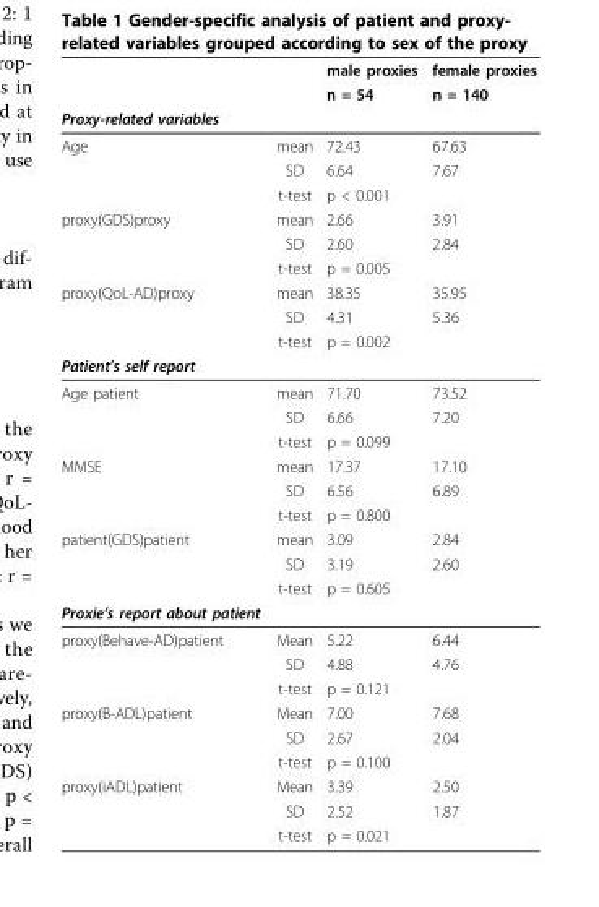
<table><thead><tr><td rowspan="3">Proxy-related variables</td><td rowspan="3"></td><td rowspan="3">male proxies n = 54</td><td rowspan="3">female proxies n = 140</td></tr><tr></tr><tr></tr></thead><tbody><tr><td rowspan="3">Age</td><td>mean</td><td>72.43</td><td>67.63</td></tr><tr><td>SD</td><td>6.64</td><td>7.67</td></tr><tr><td>t-test</td><td>p &lt; 0.001</td><td></td></tr><tr><td rowspan="3">proxy(GDS)proxy</td><td>mean</td><td>2.66</td><td>3.91</td></tr><tr><td>SD</td><td>2.60</td><td>2.84</td></tr><tr><td>t-test</td><td>p = 0.005</td><td></td></tr><tr><td rowspan="3">proxy(QoL-AD)proxy</td><td>mean</td><td>38.35</td><td>35.95</td></tr><tr><td>SD</td><td>4.31</td><td>5.36</td></tr><tr><td>t-test</td><td>p = 0.002</td><td></td></tr><tr><td colspan="4">Patient’s self report</td></tr><tr><td rowspan="3">Age patient</td><td>mean</td><td>71.70</td><td>73.52</td></tr><tr><td>SD</td><td>6.66</td><td>7.20</td></tr><tr><td>t-test</td><td>p = 0.099</td><td></td></tr><tr><td rowspan="3">MMSE</td><td>mean</td><td>17.37</td><td>17.10</td></tr><tr><td>SD</td><td>6.56</td><td>6.89</td></tr><tr><td>t-test</td><td>p = 0.800</td><td></td></tr><tr><td rowspan="3">patient(GDS)patient</td><td>mean</td><td>3.09</td><td>2.84</td></tr><tr><td>SD</td><td>3.19</td><td>2.60</td></tr><tr><td>t-test</td><td>p = 0.605</td><td></td></tr><tr><td colspan="4">Proxie’s report about patient</td></tr><tr><td rowspan="3">proxy(Behave-AD)patient</td><td>Mean</td><td>5.22</td><td>6.44</td></tr><tr><td>SD</td><td>4.88</td><td>4.76</td></tr><tr><td>t-test</td><td>p = 0.121</td><td></td></tr><tr><td rowspan="3">proxy(B-ADL)patient</td><td>Mean</td><td>7.00</td><td>7.68</td></tr><tr><td>SD</td><td>2.67</td><td>2.04</td></tr><tr><td>t-test</td><td>p = 0.100</td><td></td></tr><tr><td rowspan="3">proxy(iADL)patient</td><td>Mean</td><td>3.39</td><td>2.50</td></tr><tr><td>SD</td><td>2.52</td><td>1.87</td></tr><tr><td>t-test</td><td>p = 0.021</td><td></td></tr></tbody></table>